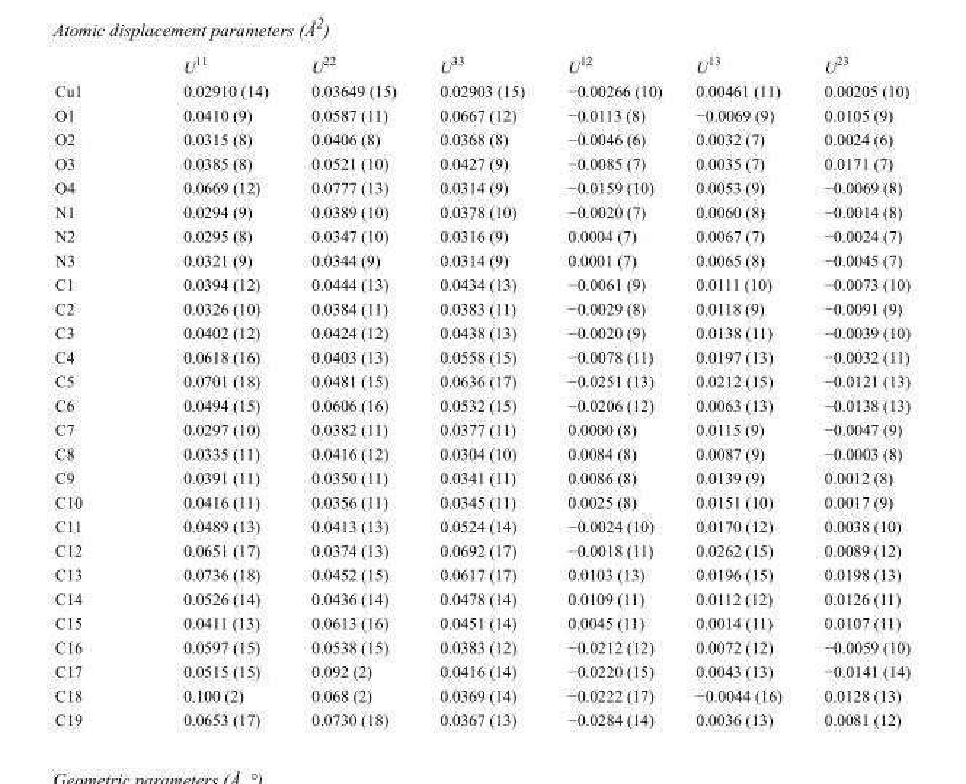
<table><thead><tr><td></td><td>U<sup>11</sup></td><td>U<sup>22</sup></td><td>U<sup>33</sup></td><td>U<sup>12</sup></td><td>U<sup>13</sup></td><td>U<sup>23</sup></td></tr></thead><tbody><tr><td>Cu1</td><td>0.02910 (14)</td><td>0.03649 (15)</td><td>0.02903 (15)</td><td>−0.00266 (10)</td><td>0.00461 (11)</td><td>0.00205 (10)</td></tr><tr><td>O1</td><td>0.0410 (9)</td><td>0.0587 (11)</td><td>0.0667 (12)</td><td>−0.0113 (8)</td><td>−0.0069 (9)</td><td>0.0105 (9)</td></tr><tr><td>O2</td><td>0.0315 (8)</td><td>0.0406 (8)</td><td>0.0368 (8)</td><td>−0.0046 (6)</td><td>0.0032 (7)</td><td>0.0024 (6)</td></tr><tr><td>O3</td><td>0.0385 (8)</td><td>0.0521 (10)</td><td>0.0427 (9)</td><td>−0.0085 (7)</td><td>0.0035 (7)</td><td>0.0171 (7)</td></tr><tr><td>O4</td><td>0.0669 (12)</td><td>0.0777 (13)</td><td>0.0314 (9)</td><td>−0.0159 (10)</td><td>0.0053 (9)</td><td>−0.0069 (8)</td></tr><tr><td>N1</td><td>0.0294 (9)</td><td>0.0389 (10)</td><td>0.0378 (10)</td><td>−0.0020 (7)</td><td>0.0060 (8)</td><td>−0.0014 (8)</td></tr><tr><td>N2</td><td>0.0295 (8)</td><td>0.0347 (10)</td><td>0.0316 (9)</td><td>0.0004 (7)</td><td>0.0067 (7)</td><td>−0.0024 (7)</td></tr><tr><td>N3</td><td>0.0321 (9)</td><td>0.0344 (9)</td><td>0.0314 (9)</td><td>0.0001 (7)</td><td>0.0065 (8)</td><td>−0.0045 (7)</td></tr><tr><td>C1</td><td>0.0394 (12)</td><td>0.0444 (13)</td><td>0.0434 (13)</td><td>−0.0061 (9)</td><td>0.0111 (10)</td><td>−0.0073 (10)</td></tr><tr><td>C2</td><td>0.0326 (10)</td><td>0.0384 (11)</td><td>0.0383 (11)</td><td>−0.0029 (8)</td><td>0.0118 (9)</td><td>−0.0091 (9)</td></tr><tr><td>C3</td><td>0.0402 (12)</td><td>0.0424 (12)</td><td>0.0438 (13)</td><td>−0.0020 (9)</td><td>0.0138 (11)</td><td>−0.0039 (10)</td></tr><tr><td>C4</td><td>0.0618 (16)</td><td>0.0403 (13)</td><td>0.0558 (15)</td><td>−0.0078 (11)</td><td>0.0197 (13)</td><td>−0.0032 (11)</td></tr><tr><td>C5</td><td>0.0701 (18)</td><td>0.0481 (15)</td><td>0.0636 (17)</td><td>−0.0251 (13)</td><td>0.0212 (15)</td><td>−0.0121 (13)</td></tr><tr><td>C6</td><td>0.0494 (15)</td><td>0.0606 (16)</td><td>0.0532 (15)</td><td>−0.0206 (12)</td><td>0.0063 (13)</td><td>−0.0138 (13)</td></tr><tr><td>C7</td><td>0.0297 (10)</td><td>0.0382 (11)</td><td>0.0377 (11)</td><td>0.0000 (8)</td><td>0.0115 (9)</td><td>−0.0047 (9)</td></tr><tr><td>C8</td><td>0.0335 (11)</td><td>0.0416 (12)</td><td>0.0304 (10)</td><td>0.0084 (8)</td><td>0.0087 (9)</td><td>−0.0003 (8)</td></tr><tr><td>C9</td><td>0.0391 (11)</td><td>0.0350 (11)</td><td>0.0341 (11)</td><td>0.0086 (8)</td><td>0.0139 (9)</td><td>0.0012 (8)</td></tr><tr><td>C10</td><td>0.0416 (11)</td><td>0.0356 (11)</td><td>0.0345 (11)</td><td>0.0025 (8)</td><td>0.0151 (10)</td><td>0.0017 (9)</td></tr><tr><td>C11</td><td>0.0489 (13)</td><td>0.0413 (13)</td><td>0.0524 (14)</td><td>−0.0024 (10)</td><td>0.0170 (12)</td><td>0.0038 (10)</td></tr><tr><td>C12</td><td>0.0651 (17)</td><td>0.0374 (13)</td><td>0.0692 (17)</td><td>−0.0018 (11)</td><td>0.0262 (15)</td><td>0.0089 (12)</td></tr><tr><td>C13</td><td>0.0736 (18)</td><td>0.0452 (15)</td><td>0.0617 (17)</td><td>0.0103 (13)</td><td>0.0196 (15)</td><td>0.0198 (13)</td></tr><tr><td>C14</td><td>0.0526 (14)</td><td>0.0436 (14)</td><td>0.0478 (14)</td><td>0.0109 (11)</td><td>0.0112 (12)</td><td>0.0126 (11)</td></tr><tr><td>C15</td><td>0.0411 (13)</td><td>0.0613 (16)</td><td>0.0451 (14)</td><td>0.0045 (11)</td><td>0.0014 (11)</td><td>0.0107 (11)</td></tr><tr><td>C16</td><td>0.0597 (15)</td><td>0.0538 (15)</td><td>0.0383 (12)</td><td>−0.0212 (12)</td><td>0.0072 (12)</td><td>−0.0059 (10)</td></tr><tr><td>C17</td><td>0.0515 (15)</td><td>0.092 (2)</td><td>0.0416 (14)</td><td>−0.0220 (15)</td><td>0.0043 (13)</td><td>−0.0141 (14)</td></tr><tr><td>C18</td><td>0.100 (2)</td><td>0.068 (2)</td><td>0.0369 (14)</td><td>−0.0222 (17)</td><td>−0.0044 (16)</td><td>0.0128 (13)</td></tr><tr><td>C19</td><td>0.0653 (17)</td><td>0.0730 (18)</td><td>0.0367 (13)</td><td>−0.0284 (14)</td><td>0.0036 (13)</td><td>0.0081 (12)</td></tr></tbody></table>